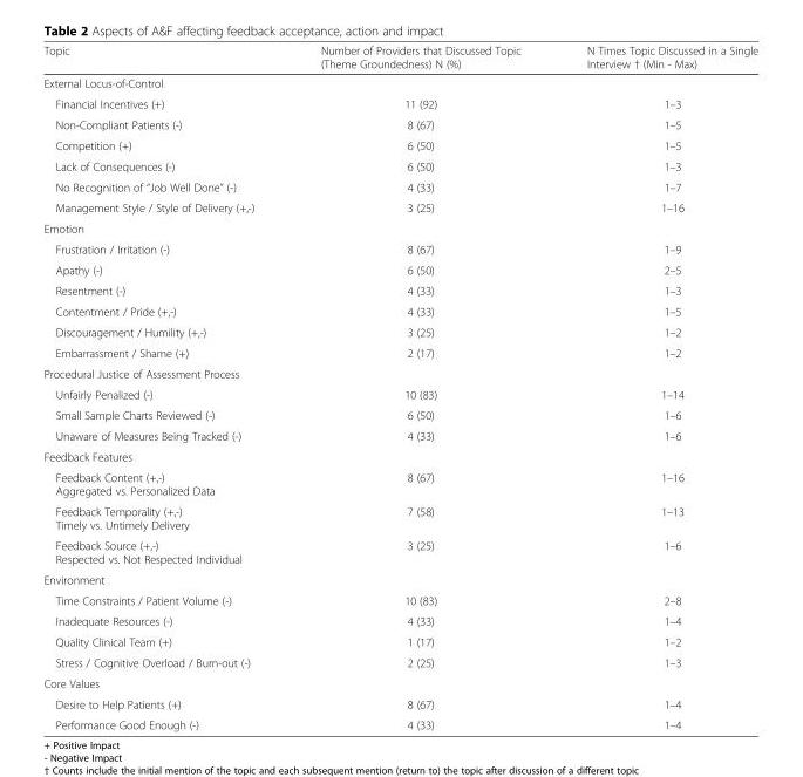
<table><thead><tr><td>Topic</td><td>Number of Providers that Discussed Topic (Theme Groundedness) N (%)</td><td>N Times Topic Discussed in a Single Interview † (Min - Max)</td></tr></thead><tbody><tr><td colspan="3">External Locus-of-Control</td></tr><tr><td>Financial Incentives (+)</td><td>11 (92)</td><td>1–3</td></tr><tr><td>Non-Compliant Patients (-)</td><td>8 (67)</td><td>1–5</td></tr><tr><td>Competition (+)</td><td>6 (50)</td><td>1–5</td></tr><tr><td>Lack of Consequences (-)</td><td>6 (50)</td><td>1–3</td></tr><tr><td>No Recognition of “Job Well Done” (-)</td><td>4 (33)</td><td>1–7</td></tr><tr><td>Management Style / Style of Delivery (+,-)</td><td>3 (25)</td><td>1–16</td></tr><tr><td colspan="3">Emotion</td></tr><tr><td>Frustration / Irritation (-)</td><td>8 (67)</td><td>1–9</td></tr><tr><td>Apathy (-)</td><td>6 (50)</td><td>2–5</td></tr><tr><td>Resentment (-)</td><td>4 (33)</td><td>1–3</td></tr><tr><td>Contentment / Pride (+,-)</td><td>4 (33)</td><td>1–5</td></tr><tr><td>Discouragement / Humility (+,-)</td><td>3 (25)</td><td>1–2</td></tr><tr><td>Embarrassment / Shame (+)</td><td>2 (17)</td><td>1–2</td></tr><tr><td colspan="3">Procedural Justice of Assessment Process</td></tr><tr><td>Unfairly Penalized (-)</td><td>10 (83)</td><td>1–14</td></tr><tr><td>Small Sample Charts Reviewed (-)</td><td>6 (50)</td><td>1–6</td></tr><tr><td>Unaware of Measures Being Tracked (-)</td><td>4 (33)</td><td>1–6</td></tr><tr><td colspan="3">Feedback Features</td></tr><tr><td>Feedback Content (+,-) Aggregated vs. Personalized Data</td><td>8 (67)</td><td>1–16</td></tr><tr><td>Feedback Temporality (+,-) Timely vs. Untimely Delivery</td><td>7 (58)</td><td>1–13</td></tr><tr><td>Feedback Source (+,-) Respected vs. Not Respected Individual</td><td>3 (25)</td><td>1–6</td></tr><tr><td colspan="3">Environment</td></tr><tr><td>Time Constraints / Patient Volume (-)</td><td>10 (83)</td><td>2–8</td></tr><tr><td>Inadequate Resources (-)</td><td>4 (33)</td><td>1–4</td></tr><tr><td>Quality Clinical Team (+)</td><td>1 (17)</td><td>1–2</td></tr><tr><td>Stress / Cognitive Overload / Burn-out (-)</td><td>2 (25)</td><td>1–3</td></tr><tr><td colspan="3">Core Values</td></tr><tr><td>Desire to Help Patients (+)</td><td>8 (67)</td><td>1–4</td></tr><tr><td>Performance Good Enough (-)</td><td>4 (33)</td><td>1–4</td></tr></tbody></table>